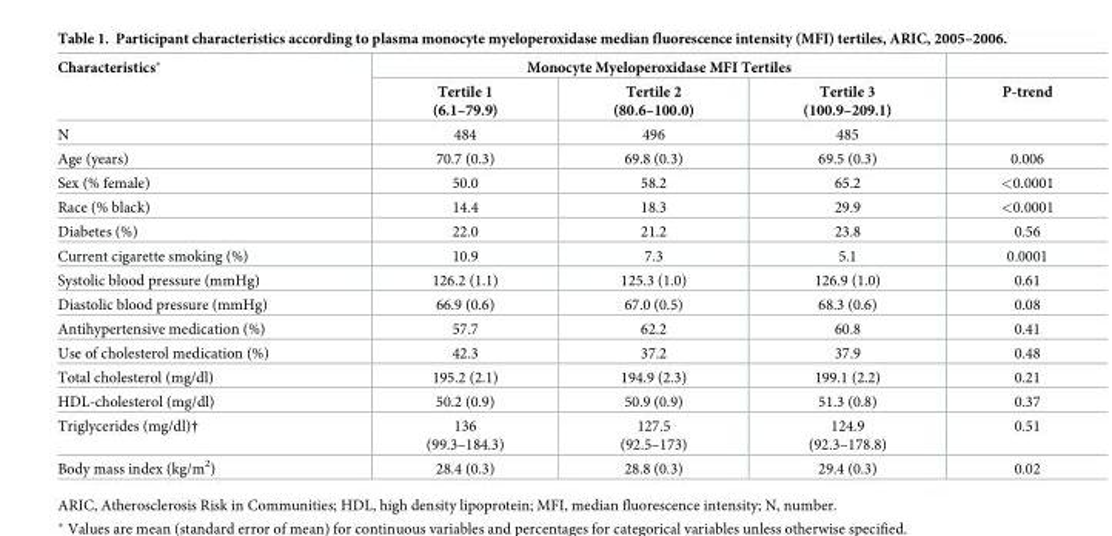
<table><thead><tr><td rowspan="2">Characteristics*</td><td colspan="3">Monocyte Myeloperoxidase MFI Tertiles</td><td rowspan="2">P-trend</td></tr><tr><td>Tertile 1 (6.1–79.9)</td><td>Tertile 2 (80.6–100.0)</td><td>Tertile 3 (100.9–209.1)</td></tr></thead><tbody><tr><td>N</td><td>484</td><td>496</td><td>485</td><td></td></tr><tr><td>Age (years)</td><td>70.7 (0.3)</td><td>69.8 (0.3)</td><td>69.5 (0.3)</td><td>0.006</td></tr><tr><td>Sex (% female)</td><td>50.0</td><td>58.2</td><td>65.2</td><td>&lt;0.0001</td></tr><tr><td>Race (% black)</td><td>14.4</td><td>18.3</td><td>29.9</td><td>&lt;0.0001</td></tr><tr><td>Diabetes (%)</td><td>22.0</td><td>21.2</td><td>23.8</td><td>0.56</td></tr><tr><td>Current cigarette smoking (%)</td><td>10.9</td><td>7.3</td><td>5.1</td><td>0.0001</td></tr><tr><td>Systolic blood pressure (mmHg)</td><td>126.2 (1.1)</td><td>125.3 (1.0)</td><td>126.9 (1.0)</td><td>0.61</td></tr><tr><td>Diastolic blood pressure (mmHg)</td><td>66.9 (0.6)</td><td>67.0 (0.5)</td><td>68.3 (0.6)</td><td>0.08</td></tr><tr><td>Antihypertensive medication (%)</td><td>57.7</td><td>62.2</td><td>60.8</td><td>0.41</td></tr><tr><td>Use of cholesterol medication (%)</td><td>42.3</td><td>37.2</td><td>37.9</td><td>0.48</td></tr><tr><td>Total cholesterol (mg/dl)</td><td>195.2 (2.1)</td><td>194.9 (2.3)</td><td>199.1 (2.2)</td><td>0.21</td></tr><tr><td>HDL-cholesterol (mg/dl)</td><td>50.2 (0.9)</td><td>50.9 (0.9)</td><td>51.3 (0.8)</td><td>0.37</td></tr><tr><td>Triglycerides (mg/dl)†</td><td>136 (99.3–184.3)</td><td>127.5 (92.5–173)</td><td>124.9 (92.3–178.8)</td><td>0.51</td></tr><tr><td>Body mass index (kg/m<sup>2</sup>)</td><td>28.4 (0.3)</td><td>28.8 (0.3)</td><td>29.4 (0.3)</td><td>0.02</td></tr></tbody></table>